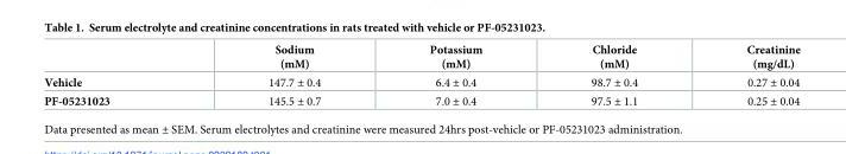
<table><thead><tr><td></td><td>Sodium (mM)</td><td>Potassium (mM)</td><td>Chloride (mM)</td><td>Creatinine (mg/dL)</td></tr></thead><tbody><tr><td>Vehicle</td><td>147.7 ± 0.4</td><td>6.4 ± 0.4</td><td>98.7 ± 0.4</td><td>0.27 ± 0.04</td></tr><tr><td>PF-05231023</td><td>145.5 ± 0.7</td><td>7.0 ± 0.4</td><td>97.5 ± 1.1</td><td>0.25 ± 0.04</td></tr></tbody></table>